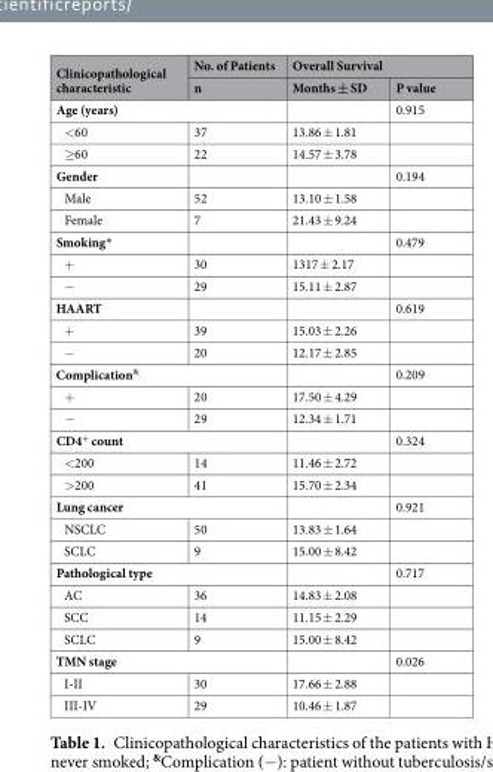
<table><thead><tr><td rowspan="2">Clinicopathological characteristic</td><td rowspan="2">No. of Patients n</td><td colspan="2">Overall Survival</td></tr><tr><td>Months ± SD</td><td>P value</td></tr></thead><tbody><tr><td colspan="2">Age (years)</td><td></td><td>0.915</td></tr><tr><td>&lt;60</td><td>37</td><td>13.86 ± 1.81</td><td></td></tr><tr><td>≥60</td><td>22</td><td>14.57 ± 3.78</td><td></td></tr><tr><td>Gender</td><td></td><td></td><td>0.194</td></tr><tr><td>Male</td><td>52</td><td>13.10 ± 1.58</td><td></td></tr><tr><td>Female</td><td>7</td><td>21.43 ± 9.24</td><td></td></tr><tr><td>Smoking*</td><td></td><td></td><td>0.479</td></tr><tr><td>+</td><td>30</td><td>1317 ± 2.17</td><td></td></tr><tr><td>−</td><td>29</td><td>15.11 ± 2.87</td><td></td></tr><tr><td>HAART</td><td></td><td></td><td>0.619</td></tr><tr><td>+</td><td>39</td><td>15.03 ± 2.26</td><td></td></tr><tr><td>−</td><td>20</td><td>12.17 ± 2.85</td><td></td></tr><tr><td colspan="2">Complication<sup>&amp;</sup></td><td></td><td>0.209</td></tr><tr><td>+</td><td>20</td><td>17.50 ± 4.29</td><td></td></tr><tr><td>−</td><td>29</td><td>12.34 ± 1.71</td><td></td></tr><tr><td colspan="2">CD4<sup>+</sup> count</td><td></td><td>0.324</td></tr><tr><td>&lt;200</td><td>14</td><td>11.46 ± 2.72</td><td></td></tr><tr><td>&gt;200</td><td>41</td><td>15.70 ± 2.34</td><td></td></tr><tr><td colspan="2">Lung cancer</td><td></td><td>0.921</td></tr><tr><td>NSCLC</td><td>50</td><td>13.83 ± 1.64</td><td></td></tr><tr><td>SCLC</td><td>9</td><td>15.00 ± 8.42</td><td></td></tr><tr><td colspan="2">Pathological type</td><td></td><td>0.717</td></tr><tr><td>AC</td><td>36</td><td>14.83 ± 2.08</td><td></td></tr><tr><td>SCC</td><td>14</td><td>11.15 ± 2.29</td><td></td></tr><tr><td>SCLC</td><td>9</td><td>15.00 ± 8.42</td><td></td></tr><tr><td colspan="2">TMN stage</td><td></td><td>0.026</td></tr><tr><td>I-II</td><td>30</td><td>17.66 ± 2.88</td><td></td></tr><tr><td>III-IV</td><td>29</td><td>10.46 ± 1.87</td><td></td></tr></tbody></table>